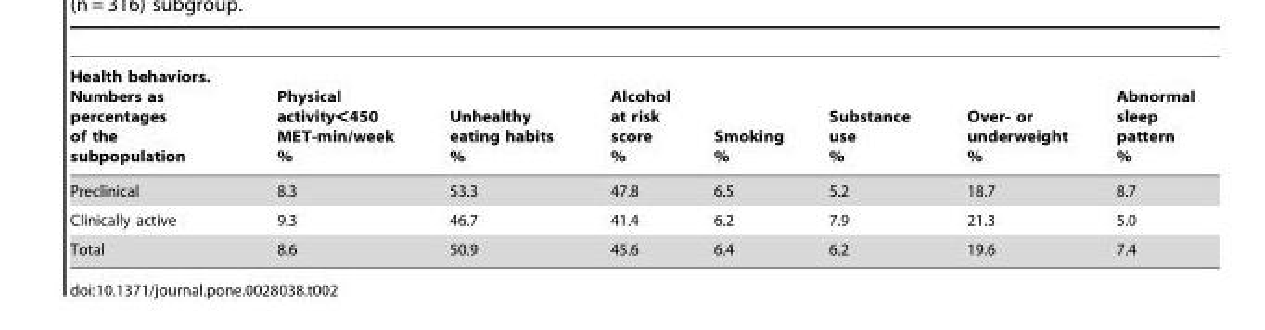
<table><thead><tr><td>Health behaviors. Numbers as percentages of the subpopulation</td><td>Physical activity&lt;450 MET-min/week %</td><td>Unhealthy eating habits %</td><td>Alcohol at risk score %</td><td>Smoking %</td><td>Substance use %</td><td>Over- or underweight %</td><td>Abnormal sleep pattern %</td></tr></thead><tbody><tr><td>Preclinical</td><td>8.3</td><td>53.3</td><td>47.8</td><td>6.5</td><td>5.2</td><td>18.7</td><td>8.7</td></tr><tr><td>Clinically active</td><td>9.3</td><td>46.7</td><td>41.4</td><td>6.2</td><td>7.9</td><td>21.3</td><td>5.0</td></tr><tr><td>Total</td><td>8.6</td><td>50.9</td><td>45.6</td><td>6.4</td><td>6.2</td><td>19.6</td><td>7.4</td></tr></tbody></table>